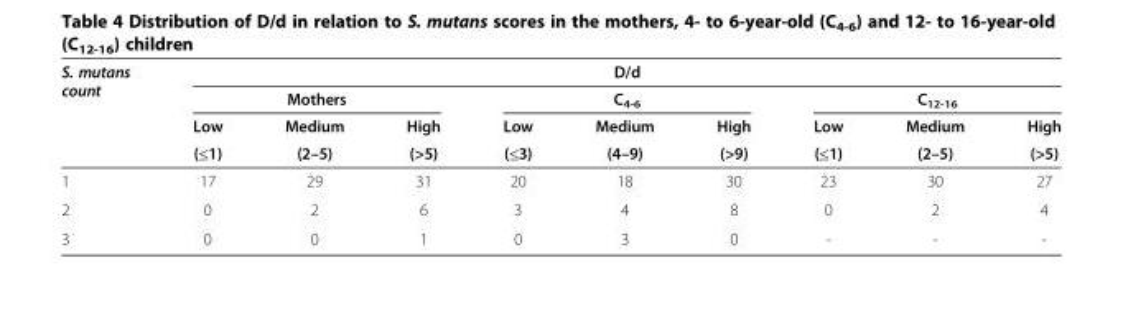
<table><thead><tr><td rowspan="4">S. mutans count</td><td colspan="9">D/d</td></tr><tr><td colspan="3">Mothers</td><td colspan="3">C<sub>4-6</sub></td><td colspan="3">C<sub>12-16</sub></td></tr><tr><td rowspan="2">Low (≤1)</td><td rowspan="2">Medium (2–5)</td><td rowspan="2">High (&gt;5)</td><td rowspan="2">Low (≤3)</td><td rowspan="2">Medium (4–9)</td><td rowspan="2">High (&gt;9)</td><td rowspan="2">Low (≤1)</td><td rowspan="2">Medium (2–5)</td><td rowspan="2">High (&gt;5)</td></tr><tr></tr></thead><tbody><tr><td>1</td><td>17</td><td>29</td><td>31</td><td>20</td><td>18</td><td>30</td><td>23</td><td>30</td><td>27</td></tr><tr><td>2</td><td>0</td><td>2</td><td>6</td><td>3</td><td>4</td><td>8</td><td>0</td><td>2</td><td>4</td></tr><tr><td>3</td><td>0</td><td>0</td><td>1</td><td>0</td><td>3</td><td>0</td><td>-</td><td>-</td><td>-</td></tr></tbody></table>